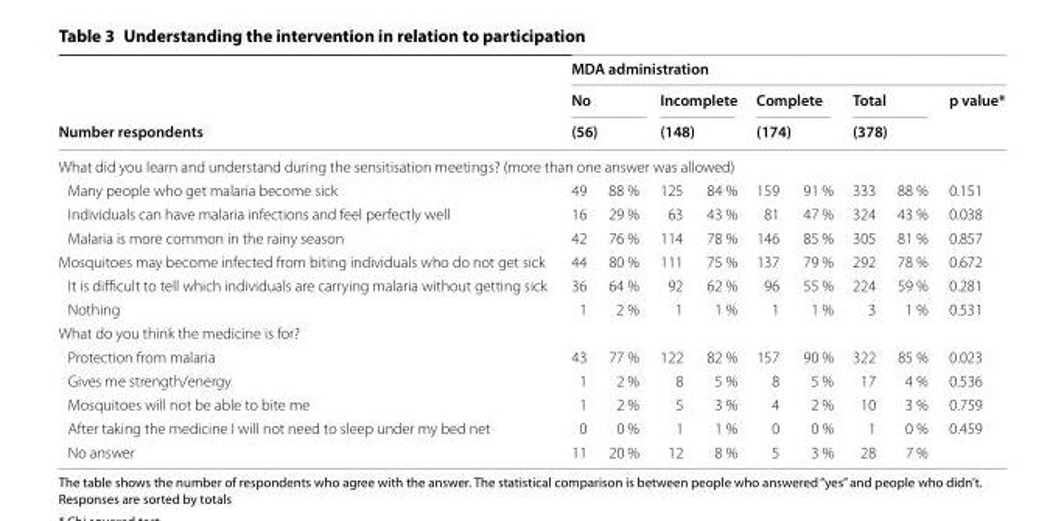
<table><thead><tr><td rowspan="3">Number respondents</td><td colspan="9">MDA administration</td></tr><tr><td rowspan="2" colspan="2">No (56)</td><td rowspan="2" colspan="2">Incomplete (148)</td><td rowspan="2" colspan="2">Complete (174)</td><td rowspan="2" colspan="2">Total (378)</td><td rowspan="2">p value*</td></tr><tr></tr><tr><td colspan="10">What did you learn and understand during the sensitisation meetings? (more than one answer was allowed)</td></tr><tr><td>Many people who get malaria become sick</td><td>49</td><td>88 %</td><td>125</td><td>84 %</td><td>159</td><td>91 %</td><td>333</td><td>88 %</td><td>0.151</td></tr></thead><tbody><tr><td>Individuals can have malaria infections and feel perfectly well</td><td>16</td><td>29 %</td><td>63</td><td>43 %</td><td>81</td><td>47 %</td><td>324</td><td>43 %</td><td>0.038</td></tr><tr><td>Malaria is more common in the rainy season</td><td>42</td><td>76 %</td><td>114</td><td>78 %</td><td>146</td><td>85 %</td><td>305</td><td>81 %</td><td>0.857</td></tr><tr><td>Mosquitoes may become infected from biting individuals who do not get sick</td><td>44</td><td>80 %</td><td>111</td><td>75 %</td><td>137</td><td>79 %</td><td>292</td><td>78 %</td><td>0.672</td></tr><tr><td>It is difficult to tell which individuals are carrying malaria without getting sick</td><td>36</td><td>64 %</td><td>92</td><td>62 %</td><td>96</td><td>55 %</td><td>224</td><td>59 %</td><td>0.281</td></tr><tr><td>Nothing</td><td>1</td><td>2 %</td><td>1</td><td>1 %</td><td>1</td><td>1 %</td><td>3</td><td>1 %</td><td>0.531</td></tr><tr><td colspan="10">What do you think the medicine is for?</td></tr><tr><td>Protection from malaria</td><td>43</td><td>77 %</td><td>122</td><td>82 %</td><td>157</td><td>90 %</td><td>322</td><td>85 %</td><td>0.023</td></tr><tr><td>Gives me strength/energy</td><td>1</td><td>2 %</td><td>8</td><td>5 %</td><td>8</td><td>5 %</td><td>17</td><td>4 %</td><td>0.536</td></tr><tr><td>Mosquitoes will not be able to bite me</td><td>1</td><td>2 %</td><td>5</td><td>3 %</td><td>4</td><td>2 %</td><td>10</td><td>3 %</td><td>0.759</td></tr><tr><td>After taking the medicine I will not need to sleep under my bed net</td><td>0</td><td>0 %</td><td>1</td><td>1 %</td><td>0</td><td>0 %</td><td>1</td><td>0 %</td><td>0.459</td></tr><tr><td>No answer</td><td>11</td><td>20 %</td><td>12</td><td>8 %</td><td>5</td><td>3 %</td><td>28</td><td>7 %</td><td></td></tr></tbody></table>